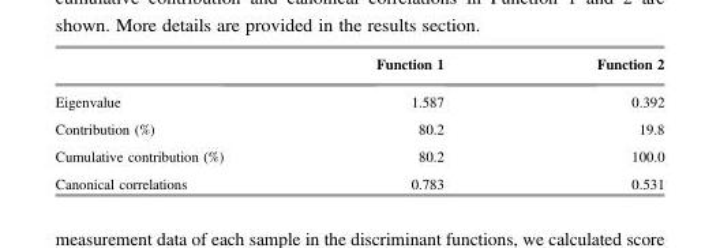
<table><thead><tr><td></td><td>Function 1</td><td>Function 2</td></tr></thead><tbody><tr><td>Eigenvalue</td><td>1.587</td><td>0.392</td></tr><tr><td>Contribution (%)</td><td>80.2</td><td>19.8</td></tr><tr><td>Cumulative contribution (%)</td><td>80.2</td><td>100.0</td></tr><tr><td>Canonical correlations</td><td>0.783</td><td>0.531</td></tr></tbody></table>